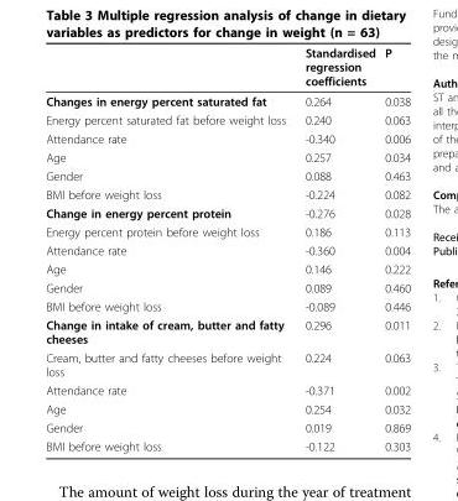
<table><thead><tr><td></td><td>Standardised regression coefficients</td><td>P</td></tr></thead><tbody><tr><td>Changes in energy percent saturated fat</td><td>0.264</td><td>0.038</td></tr><tr><td>Energy percent saturated fat before weight loss</td><td>0.240</td><td>0.063</td></tr><tr><td>Attendance rate</td><td>-0.340</td><td>0.006</td></tr><tr><td>Age</td><td>0.257</td><td>0.034</td></tr><tr><td>Gender</td><td>0.088</td><td>0.463</td></tr><tr><td>BMI before weight loss</td><td>-0.224</td><td>0.082</td></tr><tr><td>Change in energy percent protein</td><td>-0.276</td><td>0.028</td></tr><tr><td>Energy percent protein before weight loss</td><td>0.186</td><td>0.113</td></tr><tr><td>Attendance rate</td><td>-0.360</td><td>0.004</td></tr><tr><td>Age</td><td>0.146</td><td>0.222</td></tr><tr><td>Gender</td><td>0.089</td><td>0.460</td></tr><tr><td>BMI before weight loss</td><td>-0.089</td><td>0.446</td></tr><tr><td>Change in intake of cream, butter and fatty cheeses</td><td>0.296</td><td>0.011</td></tr><tr><td>Cream, butter and fatty cheeses before weight loss</td><td>0.224</td><td>0.063</td></tr><tr><td>Attendance rate</td><td>-0.371</td><td>0.002</td></tr><tr><td>Age</td><td>0.254</td><td>0.032</td></tr><tr><td>Gender</td><td>0.019</td><td>0.869</td></tr><tr><td>BMI before weight loss</td><td>-0.122</td><td>0.303</td></tr></tbody></table>